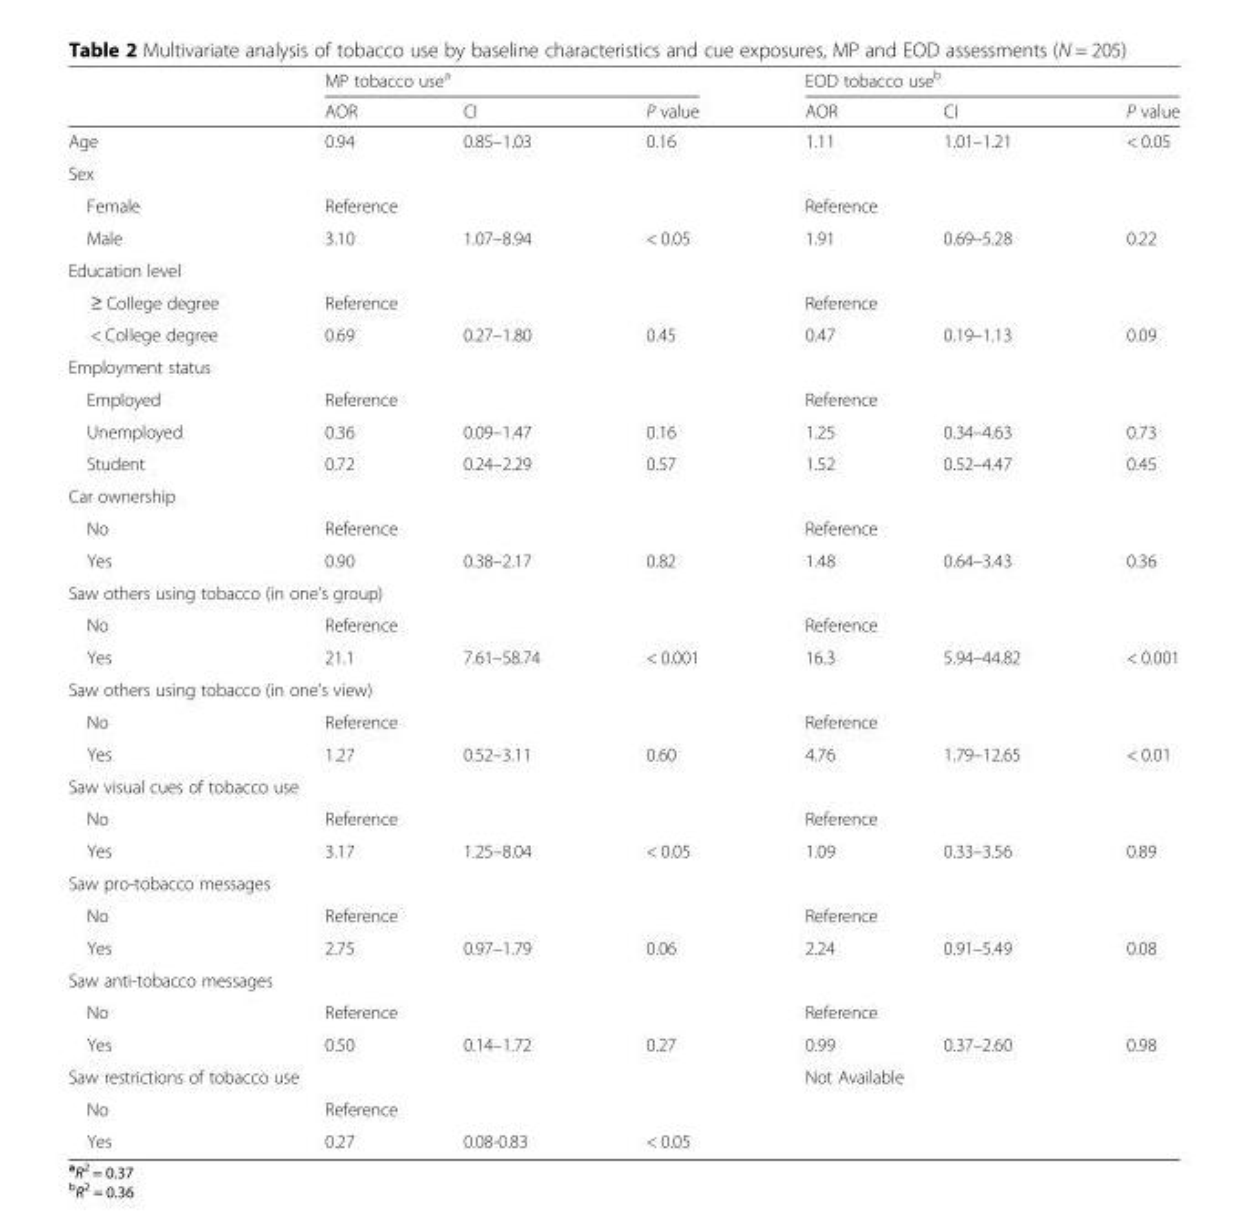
<table><thead><tr><td rowspan="2"></td><td colspan="3">MP tobacco use<sup>a</sup></td><td colspan="3">EOD tobacco use<sup>b</sup></td></tr><tr><td>AOR</td><td>CI</td><td>P value</td><td>AOR</td><td>CI</td><td>P value</td></tr></thead><tbody><tr><td>Age</td><td>0.94</td><td>0.85–1.03</td><td>0.16</td><td>1.11</td><td>1.01–1.21</td><td>&lt; 0.05</td></tr><tr><td colspan="7">Sex</td></tr><tr><td>Female</td><td colspan="3">Reference</td><td colspan="3">Reference</td></tr><tr><td>Male</td><td>3.10</td><td>1.07–8.94</td><td>&lt; 0.05</td><td>1.91</td><td>0.69–5.28</td><td>0.22</td></tr><tr><td colspan="7">Education level</td></tr><tr><td>≥ College degree</td><td colspan="3">Reference</td><td colspan="3">Reference</td></tr><tr><td>&lt; College degree</td><td>0.69</td><td>0.27–1.80</td><td>0.45</td><td>0.47</td><td>0.19–1.13</td><td>0.09</td></tr><tr><td colspan="7">Employment status</td></tr><tr><td>Employed</td><td colspan="3">Reference</td><td colspan="3">Reference</td></tr><tr><td>Unemployed</td><td>0.36</td><td>0.09–1.47</td><td>0.16</td><td>1.25</td><td>0.34–4.63</td><td>0.73</td></tr><tr><td>Student</td><td>0.72</td><td>0.24–2.29</td><td>0.57</td><td>1.52</td><td>0.52–4.47</td><td>0.45</td></tr><tr><td colspan="7">Car ownership</td></tr><tr><td>No</td><td colspan="3">Reference</td><td colspan="3">Reference</td></tr><tr><td>Yes</td><td>0.90</td><td>0.38–2.17</td><td>0.82</td><td>1.48</td><td>0.64–3.43</td><td>0.36</td></tr><tr><td colspan="7">Saw others using tobacco (in one’s group)</td></tr><tr><td>No</td><td colspan="3">Reference</td><td colspan="3">Reference</td></tr><tr><td>Yes</td><td>21.1</td><td>7.61–58.74</td><td>&lt; 0.001</td><td>16.3</td><td>5.94–44.82</td><td>&lt; 0.001</td></tr><tr><td colspan="7">Saw others using tobacco (in one’s view)</td></tr><tr><td>No</td><td colspan="3">Reference</td><td colspan="3">Reference</td></tr><tr><td>Yes</td><td>1.27</td><td>0.52–3.11</td><td>0.60</td><td>4.76</td><td>1.79–12.65</td><td>&lt; 0.01</td></tr><tr><td colspan="7">Saw visual cues of tobacco use</td></tr><tr><td>No</td><td colspan="3">Reference</td><td colspan="3">Reference</td></tr><tr><td>Yes</td><td>3.17</td><td>1.25–8.04</td><td>&lt; 0.05</td><td>1.09</td><td>0.33–3.56</td><td>0.89</td></tr><tr><td colspan="7">Saw pro-tobacco messages</td></tr><tr><td>No</td><td colspan="3">Reference</td><td colspan="3">Reference</td></tr><tr><td>Yes</td><td>2.75</td><td>0.97–1.79</td><td>0.06</td><td>2.24</td><td>0.91–5.49</td><td>0.08</td></tr><tr><td colspan="7">Saw anti-tobacco messages</td></tr><tr><td>No</td><td colspan="3">Reference</td><td colspan="3">Reference</td></tr><tr><td>Yes</td><td>0.50</td><td>0.14–1.72</td><td>0.27</td><td>0.99</td><td>0.37–2.60</td><td>0.98</td></tr><tr><td colspan="3">Saw restrictions of tobacco use</td><td></td><td colspan="3">Not Available</td></tr><tr><td>No</td><td colspan="3">Reference</td><td colspan="3"></td></tr><tr><td>Yes</td><td>0.27</td><td>0.08-0.83</td><td>&lt; 0.05</td><td colspan="3"></td></tr></tbody></table>